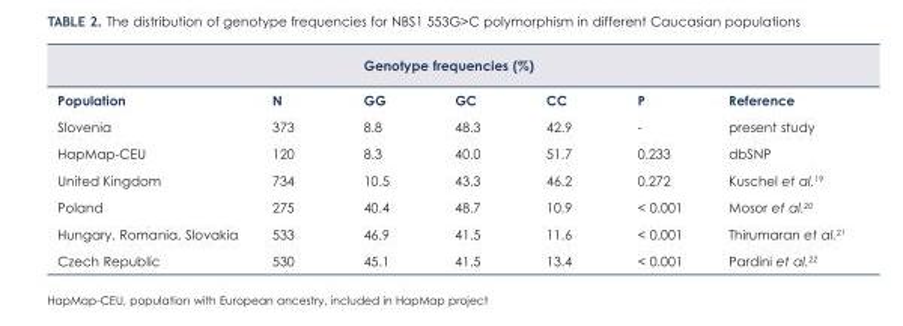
<table><thead><tr><td colspan="7">Genotype frequencies (%)</td></tr><tr><td>Population</td><td>N</td><td>GG</td><td>GC</td><td>CC</td><td>P</td><td>Reference</td></tr></thead><tbody><tr><td>Slovenia</td><td>373</td><td>8.8</td><td>48.3</td><td>42.9</td><td>-</td><td>present study</td></tr><tr><td>HapMap-CEU</td><td>120</td><td>8.3</td><td>40.0</td><td>51.7</td><td>0.233</td><td>dbSNP</td></tr><tr><td>United Kingdom</td><td>734</td><td>10.5</td><td>43.3</td><td>46.2</td><td>0.272</td><td>Kuschel et al.<sup>19</sup></td></tr><tr><td>Poland</td><td>275</td><td>40.4</td><td>48.7</td><td>10.9</td><td>&lt; 0.001</td><td>Mosor et al.<sup>20</sup></td></tr><tr><td>Hungary, Romania, Slovakia</td><td>533</td><td>46.9</td><td>41.5</td><td>11.6</td><td>&lt; 0.001</td><td>Thirumaran et al.<sup>21</sup></td></tr><tr><td>Czech Republic</td><td>530</td><td>45.1</td><td>41.5</td><td>13.4</td><td>&lt; 0.001</td><td>Pardini et al.<sup>22</sup></td></tr></tbody></table>